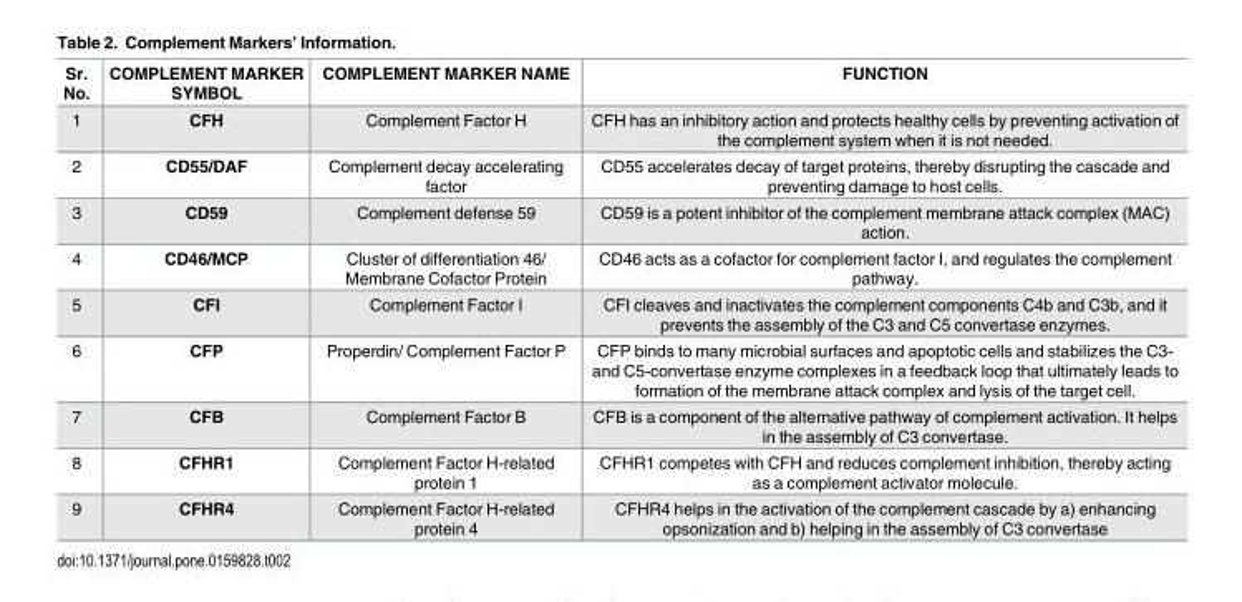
<table><thead><tr><td>Sr. No.</td><td>COMPLEMENT MARKER SYMBOL</td><td>COMPLEMENT MARKER NAME</td><td>FUNCTION</td></tr></thead><tbody><tr><td>1</td><td>CFH</td><td>Complement Factor H</td><td>CFH has an inhibitory action and protects healthy cells by preventing activation of the complement system when it is not needed.</td></tr><tr><td>2</td><td>CD55/DAF</td><td>Complement decay accelerating factor</td><td>CD55 accelerates decay of target proteins, thereby disrupting the cascade and preventing damage to host cells.</td></tr><tr><td>3</td><td>CD59</td><td>Complement defense 59</td><td>CD59 is a potent inhibitor of the complement membrane attack complex (MAC) action.</td></tr><tr><td>4</td><td>CD46/MCP</td><td>Cluster of differentiation 46/ Membrane Cofactor Protein</td><td>CD46 acts as a cofactor for complement factor I, and regulates the complement pathway.</td></tr><tr><td>5</td><td>CFI</td><td>Complement Factor I</td><td>CFI cleaves and inactivates the complement components C4b and C3b, and it prevents the assembly of the C3 and C5 convertase enzymes.</td></tr><tr><td>6</td><td>CFP</td><td>Properdin/ Complement Factor P</td><td>CFP binds to many microbial surfaces and apoptotic cells and stabilizes the C3- and C5-convertase enzyme complexes in a feedback loop that ultimately leads to formation of the membrane attack complex and lysis of the target cell.</td></tr><tr><td>7</td><td>CFB</td><td>Complement Factor B</td><td>CFB is a component of the alternative pathway of complement activation. It helps in the assembly of C3 convertase.</td></tr><tr><td>8</td><td>CFHR1</td><td>Complement Factor H-related protein 1</td><td>CFHR1 competes with CFH and reduces complement inhibition, thereby acting as a complement activator molecule.</td></tr><tr><td>9</td><td>CFHR4</td><td>Complement Factor H-related protein 4</td><td>CFHR4 helps in the activation of the complement cascade by a) enhancing opsonization and b) helping in the assembly of C3 convertase</td></tr></tbody></table>